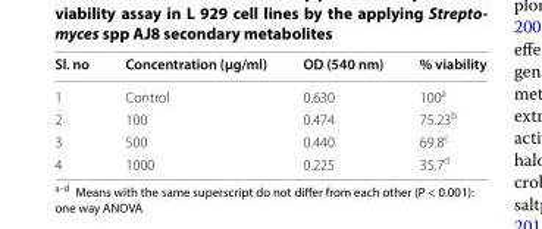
<table><thead><tr><td>Sl. no</td><td>Concentration (µg/ml)</td><td>OD (540 nm)</td><td>% viability</td></tr></thead><tbody><tr><td>1</td><td>Control</td><td>0.630</td><td>100<sup>a</sup></td></tr><tr><td>2</td><td>100</td><td>0.474</td><td>75.23<sup>b</sup></td></tr><tr><td>3</td><td>500</td><td>0.440</td><td>69.8<sup>c</sup></td></tr><tr><td>4</td><td>1000</td><td>0.225</td><td>35.7<sup>d</sup></td></tr></tbody></table>